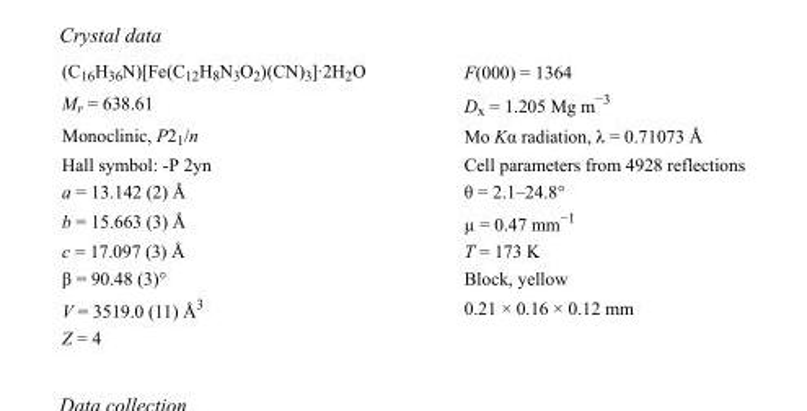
<table><tbody><tr><td>(C<sub>16</sub>H<sub>36</sub>N)[Fe(C<sub>12</sub>H<sub>8</sub>N<sub>3</sub>O<sub>2</sub>)(CN)<sub>3</sub>]·2H<sub>2</sub>O</td><td>F(000) = 1364</td></tr><tr><td>M<sub>r</sub> = 638.61</td><td>D<sub>x</sub> = 1.205 Mg m<sup>−3</sup></td></tr><tr><td>Monoclinic, P2<sub>1</sub>/n</td><td>Mo Kα radiation, λ = 0.71073 Å</td></tr><tr><td>Hall symbol: -P 2yn</td><td>Cell parameters from 4928 reflections</td></tr><tr><td>a = 13.142 (2) Å</td><td>θ = 2.1–24.8°</td></tr><tr><td>b = 15.663 (3) Å</td><td>µ = 0.47 mm<sup>−1</sup></td></tr><tr><td>c = 17.097 (3) Å</td><td>T = 173 K</td></tr><tr><td>β = 90.48 (3)°</td><td>Block, yellow</td></tr><tr><td>V = 3519.0 (11) Å<sup>3</sup></td><td>0.21 × 0.16 × 0.12 mm</td></tr><tr><td>Z = 4</td><td></td></tr></tbody></table>